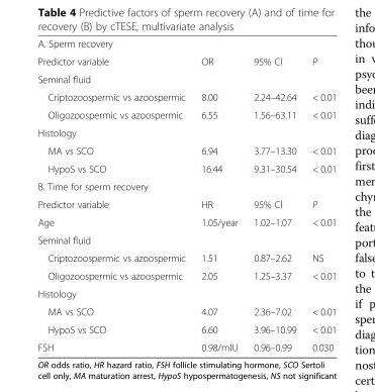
<table><tbody><tr><td colspan="4">A. Sperm recovery</td></tr><tr><td>Predictor variable</td><td>OR</td><td>95% Cl</td><td>P</td></tr><tr><td colspan="4">Seminal fluid</td></tr><tr><td>Criptozoospermic vs azoospermic</td><td>8.00</td><td>2.24–42.64</td><td>&lt; 0.01</td></tr><tr><td>Oligozoospermic vs azoospermic</td><td>6.55</td><td>1.56–63.11</td><td>&lt; 0.01</td></tr><tr><td colspan="4">Histology</td></tr><tr><td>MA vs SCO</td><td>6.94</td><td>3.77–13.30</td><td>&lt; 0.01</td></tr><tr><td>HypoS vs SCO</td><td>16.44</td><td>9.31–30.54</td><td>&lt; 0.01</td></tr><tr><td colspan="4">B. Time for sperm recovery</td></tr><tr><td>Predictor variable</td><td>HR</td><td>95% Cl</td><td>P</td></tr><tr><td>Age</td><td>1.05/year</td><td>1.02–1.07</td><td>&lt; 0.01</td></tr><tr><td colspan="4">Seminal fluid</td></tr><tr><td>Criptozoospermic vs azoospermic</td><td>1.51</td><td>0.87–2.62</td><td>NS</td></tr><tr><td>Oligozoospermic vs azoospermic</td><td>2.05</td><td>1.25–3.37</td><td>&lt; 0.01</td></tr><tr><td colspan="4">Histology</td></tr><tr><td>MA vs SCO</td><td>4.07</td><td>2.36–7.02</td><td>&lt; 0.01</td></tr><tr><td>HypoS vs SCO</td><td>6.60</td><td>3.96–10.99</td><td>&lt; 0.01</td></tr><tr><td>FSH</td><td>0.98/mIU</td><td>0.96–0.99</td><td>0.030</td></tr></tbody></table>